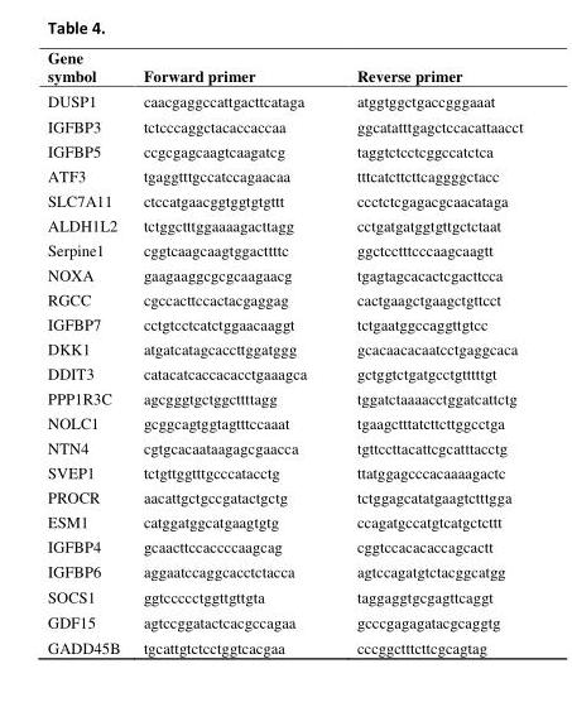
<table><thead><tr><td>Gene symbol</td><td>Forward primer</td><td>Reverse primer</td></tr></thead><tbody><tr><td>DUSP1</td><td>caacgaggccattgacttcataga</td><td>atggtggctgaccgggaaat</td></tr><tr><td>IGFBP3</td><td>tctcccaggctacaccaccaa</td><td>ggcatatttgagctccacattaacct</td></tr><tr><td>IGFBP5</td><td>ccgcgagcaagtcaagatcg</td><td>taggtctcctcggccatctca</td></tr><tr><td>ATF3</td><td>tgaggtttgccatccagaacaa</td><td>tttcatcttcttcaggggctacc</td></tr><tr><td>SLC7A11</td><td>ctccatgaacggtggtgtgttt</td><td>ccctctcgagacgcaacataga</td></tr><tr><td>ALDH1L2</td><td>tctggctttggaaaagacttagg</td><td>cctgatgatggtgttgctctaat</td></tr><tr><td>Serpine1</td><td>cggtcaagcaagtggacttttc</td><td>ggctcctttcccaagcaagtt</td></tr><tr><td>NOXA</td><td>gaagaaggcgcgcaagaacg</td><td>tgagtagcacactcgacttcca</td></tr><tr><td>RGCC</td><td>cgccacttccactacgaggag</td><td>cactgaagctgaagctgttcct</td></tr><tr><td>IGFBP7</td><td>cctgtcctcatctggaacaaggt</td><td>tctgaatggccaggttgtcc</td></tr><tr><td>DKK1</td><td>atgatcatagcaccttggatggg</td><td>gcacaacacaatcctgaggcaca</td></tr><tr><td>DDIT3</td><td>catacatcaccacacctgaaagca</td><td>gctggtctgatgcctgtttttgt</td></tr><tr><td>PPP1R3C</td><td>agcgggtgctggcttttagg</td><td>tggatctaaaacctggatcattctg</td></tr><tr><td>NOLC1</td><td>gcggcagtggtagtttccaaat</td><td>tgaagctttatcttcttggcctga</td></tr><tr><td>NTN4</td><td>cgtgcacaataagagcgaacca</td><td>tgttccttacattcgcatttacctg</td></tr><tr><td>SVEP1</td><td>tctgttggtttgcccatacctg</td><td>ttatggagcccacaaaagactc</td></tr><tr><td>PROCR</td><td>aacattgctgccgatactgctg</td><td>tctggagcatatgaagtctttgga</td></tr><tr><td>ESM1</td><td>catggatggcatgaagtgtg</td><td>ccagatgccatgtcatgctcttt</td></tr><tr><td>IGFBP4</td><td>gcaacttccaccccaagcag</td><td>cggtccacacaccagcactt</td></tr><tr><td>IGFBP6</td><td>aggaatccaggcacctctacca</td><td>agtccagatgtctacggcatgg</td></tr><tr><td>SOCS1</td><td>ggtccccctggttgttgta</td><td>taggaggtgcgagttcaggt</td></tr><tr><td>GDF15</td><td>agtccggatactcacgccagaa</td><td>gcccgagagatacgcaggtg</td></tr><tr><td>GADD45B</td><td>tgcattgtctcctggtcacgaa</td><td>cccggctttcttcgcagtag</td></tr></tbody></table>